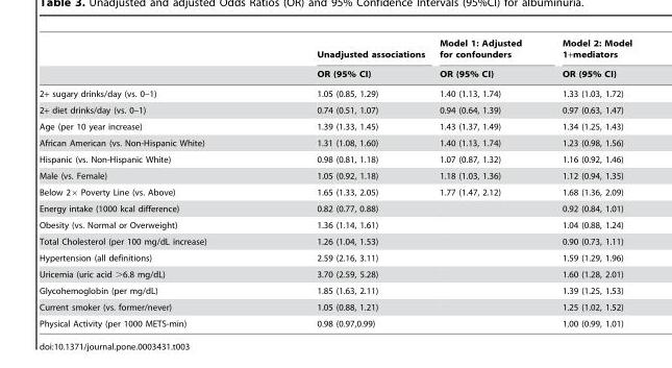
<table><thead><tr><td rowspan="2"></td><td rowspan="2">Unadjusted associations OR (95% CI)</td><td rowspan="2">Model 1: Adjusted for confounders OR (95% CI)</td><td rowspan="2">Model 2: Model 1+mediators OR (95% CI)</td></tr><tr></tr></thead><tbody><tr><td>2+ sugary drinks/day (vs. 0–1)</td><td>1.05 (0.85, 1.29)</td><td>1.40 (1.13, 1.74)</td><td>1.33 (1.03, 1.72)</td></tr><tr><td>2+ diet drinks/day (vs. 0–1)</td><td>0.74 (0.51, 1.07)</td><td>0.94 (0.64, 1.39)</td><td>0.97 (0.63, 1.47)</td></tr><tr><td>Age (per 10 year increase)</td><td>1.39 (1.33, 1.45)</td><td>1.43 (1.37, 1.49)</td><td>1.34 (1.25, 1.43)</td></tr><tr><td>African American (vs. Non-Hispanic White)</td><td>1.31 (1.08, 1.60)</td><td>1.40 (1.13, 1.74)</td><td>1.23 (0.98, 1.56)</td></tr><tr><td>Hispanic (vs. Non-Hispanic White)</td><td>0.98 (0.81, 1.18)</td><td>1.07 (0.87, 1.32)</td><td>1.16 (0.92, 1.46)</td></tr><tr><td>Male (vs. Female)</td><td>1.05 (0.92, 1.18)</td><td>1.18 (1.03, 1.36)</td><td>1.12 (0.94, 1.35)</td></tr><tr><td>Below 2× Poverty Line (vs. Above)</td><td>1.65 (1.33, 2.05)</td><td>1.77 (1.47, 2.12)</td><td>1.68 (1.36, 2.09)</td></tr><tr><td>Energy intake (1000 kcal difference)</td><td>0.82 (0.77, 0.88)</td><td></td><td>0.92 (0.84, 1.01)</td></tr><tr><td>Obesity (vs. Normal or Overweight)</td><td>1.36 (1.14, 1.61)</td><td></td><td>1.04 (0.88, 1.24)</td></tr><tr><td>Total Cholesterol (per 100 mg/dL increase)</td><td>1.26 (1.04, 1.53)</td><td></td><td>0.90 (0.73, 1.11)</td></tr><tr><td>Hypertension (all definitions)</td><td>2.59 (2.16, 3.11)</td><td></td><td>1.59 (1.29, 1.96)</td></tr><tr><td>Uricemia (uric acid &gt;6.8 mg/dL)</td><td>3.70 (2.59, 5.28)</td><td></td><td>1.60 (1.28, 2.01)</td></tr><tr><td>Glycohemoglobin (per mg/dL)</td><td>1.85 (1.63, 2.11)</td><td></td><td>1.39 (1.25, 1.53)</td></tr><tr><td>Current smoker (vs. former/never)</td><td>1.05 (0.88, 1.21)</td><td></td><td>1.25 (1.02, 1.52)</td></tr><tr><td>Physical Activity (per 1000 METS-min)</td><td>0.98 (0.97,0.99)</td><td></td><td>1.00 (0.99, 1.01)</td></tr></tbody></table>